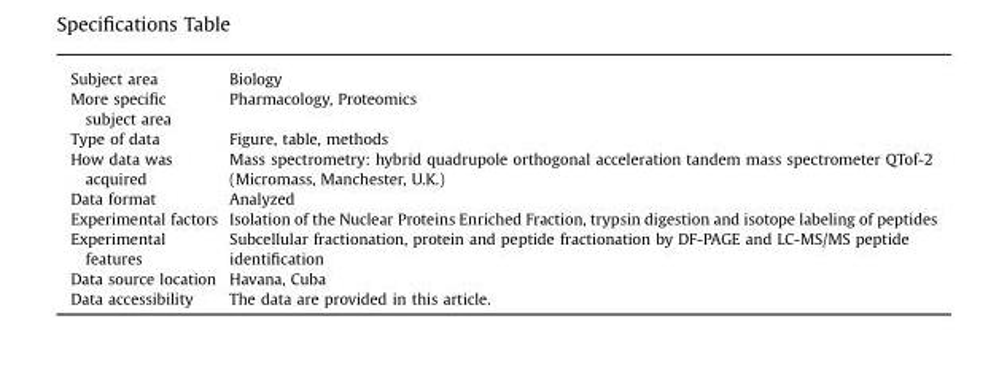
<table><tbody><tr><td>Subject area</td><td>Biology</td></tr><tr><td>More specific subject area</td><td>Pharmacology, Proteomics</td></tr><tr><td>Type of data</td><td>Figure, table, methods</td></tr><tr><td>How data was acquired</td><td>Mass spectrometry: hybrid quadrupole orthogonal acceleration tandem mass spectrometer QTof-2 (Micromass, Manchester, U.K.)</td></tr><tr><td>Data format</td><td>Analyzed</td></tr><tr><td>Experimental factors</td><td>Isolation of the Nuclear Proteins Enriched Fraction, trypsin digestion and isotope labeling of peptides</td></tr><tr><td>Experimental features</td><td>Subcellular fractionation, protein and peptide fractionation by DF-PAGE and LC-MS/MS peptide identification</td></tr><tr><td>Data source location</td><td>Havana, Cuba</td></tr><tr><td>Data accessibility</td><td>The data are provided in this article.</td></tr></tbody></table>